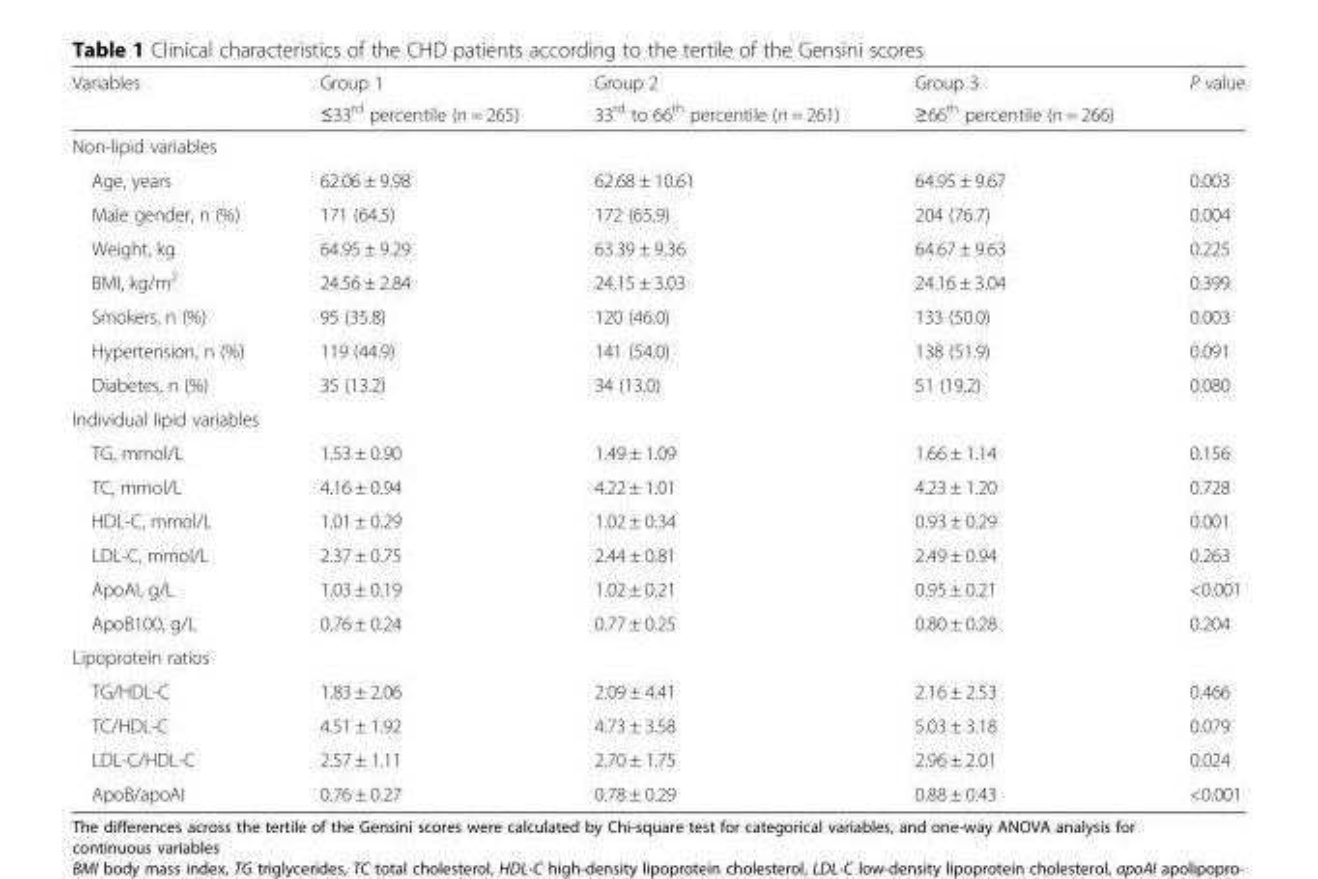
<table><thead><tr><td rowspan="2">Variables</td><td rowspan="2">Group 1 ≤33<sup>rd</sup> percentile (n = 265)</td><td rowspan="2">Group 2 33<sup>rd</sup> to 66<sup>th</sup> percentile (n = 261)</td><td rowspan="2">Group 3 ≥66<sup>th</sup> percentile (n = 266)</td><td rowspan="2">P value</td></tr><tr></tr></thead><tbody><tr><td colspan="5">Non-lipid variables</td></tr><tr><td>Age, years</td><td>62.06 ± 9.98</td><td>62.68 ± 10.61</td><td>64.95 ± 9.67</td><td>0.003</td></tr><tr><td>Male gender, n (%)</td><td>171 (64.5)</td><td>172 (65.9)</td><td>204 (76.7)</td><td>0.004</td></tr><tr><td>Weight, kg</td><td>64.95 ± 9.29</td><td>63.39 ± 9.36</td><td>64.67 ± 9.63</td><td>0.225</td></tr><tr><td>BMI, kg/m<sup>2</sup></td><td>24.56 ± 2.84</td><td>24.15 ± 3.03</td><td>24.16 ± 3.04</td><td>0.399</td></tr><tr><td>Smokers, n (%)</td><td>95 (35.8)</td><td>120 (46.0)</td><td>133 (50.0)</td><td>0.003</td></tr><tr><td>Hypertension, n (%)</td><td>119 (44.9)</td><td>141 (54.0)</td><td>138 (51.9)</td><td>0.091</td></tr><tr><td>Diabetes, n (%)</td><td>35 (13.2)</td><td>34 (13.0)</td><td>51 (19.2)</td><td>0.080</td></tr><tr><td colspan="5">Individual lipid variables</td></tr><tr><td>TG, mmol/L</td><td>1.53 ± 0.90</td><td>1.49 ± 1.09</td><td>1.66 ± 1.14</td><td>0.156</td></tr><tr><td>TC, mmol/L</td><td>4.16 ± 0.94</td><td>4.22 ± 1.01</td><td>4.23 ± 1.20</td><td>0.728</td></tr><tr><td>HDL-C, mmol/L</td><td>1.01 ± 0.29</td><td>1.02 ± 0.34</td><td>0.93 ± 0.29</td><td>0.001</td></tr><tr><td>LDL-C, mmol/L</td><td>2.37 ± 0.75</td><td>2.44 ± 0.81</td><td>2.49 ± 0.94</td><td>0.263</td></tr><tr><td>ApoAI, g/L</td><td>1.03 ± 0.19</td><td>1.02 ± 0.21</td><td>0.95 ± 0.21</td><td>&lt;0.001</td></tr><tr><td>ApoB100, g/L</td><td>0.76 ± 0.24</td><td>0.77 ± 0.25</td><td>0.80 ± 0.28</td><td>0.204</td></tr><tr><td colspan="5">Lipoprotein ratios</td></tr><tr><td>TG/HDL-C</td><td>1.83 ± 2.06</td><td>2.09 ± 4.41</td><td>2.16 ± 2.53</td><td>0.466</td></tr><tr><td>TC/HDL-C</td><td>4.51 ± 1.92</td><td>4.73 ± 3.58</td><td>5.03 ± 3.18</td><td>0.079</td></tr><tr><td>LDL-C/HDL-C</td><td>2.57 ± 1.11</td><td>2.70 ± 1.75</td><td>2.96 ± 2.01</td><td>0.024</td></tr><tr><td>ApoB/apoAI</td><td>0.76 ± 0.27</td><td>0.78 ± 0.29</td><td>0.88 ± 0.43</td><td>&lt;0.001</td></tr></tbody></table>